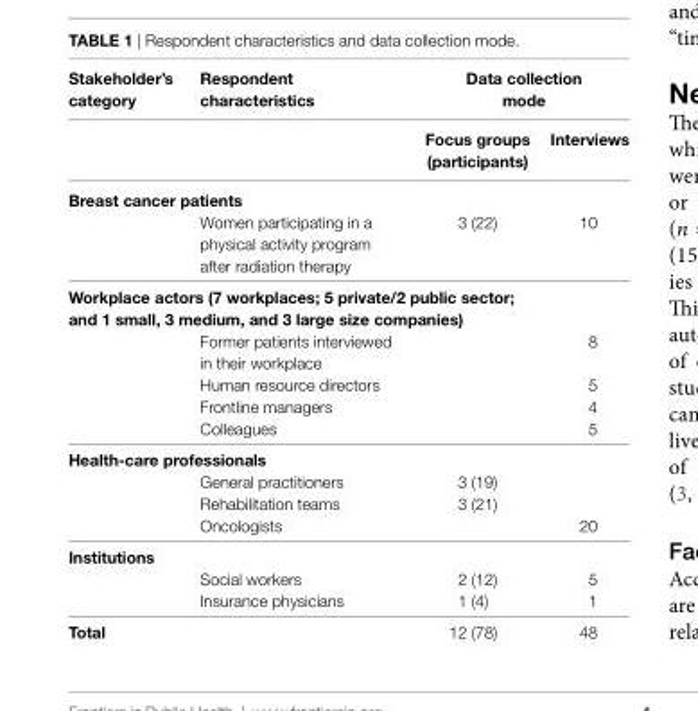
<table><thead><tr><td rowspan="2">stakeholder’s category</td><td rowspan="2">respondent characteristics</td><td colspan="2">Data collection mode</td></tr><tr><td>Focus groups (participants)</td><td>interviews</td></tr></thead><tbody><tr><td colspan="4">Breast cancer patients</td></tr><tr><td></td><td>Women participating in a physical activity program after radiation therapy</td><td>3 (22)</td><td>10</td></tr><tr><td colspan="4">Workplace actors (7 workplaces; 5 private/2 public sector; and 1 small, 3 medium, and 3 large size companies)</td></tr><tr><td></td><td>Former patients interviewed in their workplace</td><td></td><td>8</td></tr><tr><td></td><td>Human resource directors</td><td></td><td>5</td></tr><tr><td></td><td>Frontline managers</td><td></td><td>4</td></tr><tr><td></td><td>Colleagues</td><td></td><td>5</td></tr><tr><td colspan="4">health-care professionals</td></tr><tr><td></td><td>General practitioners</td><td>3 (19)</td><td></td></tr><tr><td></td><td>Rehabilitation teams</td><td>3 (21)</td><td></td></tr><tr><td></td><td>Oncologists</td><td></td><td>20</td></tr><tr><td colspan="4">institutions</td></tr><tr><td></td><td>Social workers</td><td>2 (12)</td><td>5</td></tr><tr><td></td><td>Insurance physicians</td><td>1 (4)</td><td>1</td></tr><tr><td>Total</td><td></td><td>12 (78)</td><td>48</td></tr></tbody></table>